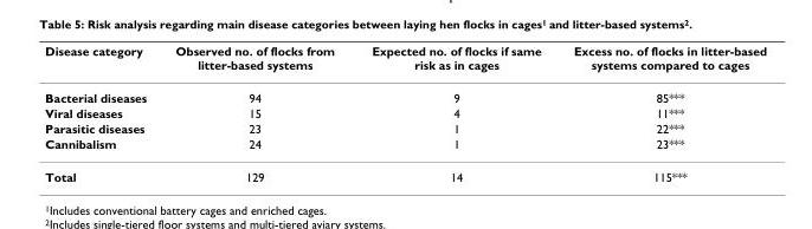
<table><thead><tr><td>Disease category</td><td>Observed no. of flocks from litter-based systems</td><td>Expected no. of flocks if same risk as in cages</td><td>Excess no. of flocks in litter-based systems compared to cages</td></tr></thead><tbody><tr><td>Bacterial diseases</td><td>94</td><td>9</td><td>85***</td></tr><tr><td>Viral diseases</td><td>15</td><td>4</td><td>11***</td></tr><tr><td>Parasitic diseases</td><td>23</td><td>1</td><td>22***</td></tr><tr><td>Cannibalism</td><td>24</td><td>1</td><td>23***</td></tr><tr><td>Total</td><td>129</td><td>14</td><td>115***</td></tr></tbody></table>